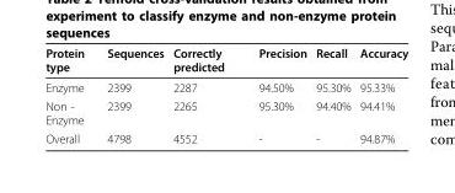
<table><thead><tr><td>Protein type</td><td>Sequences</td><td>Correctly predicted</td><td>Precision</td><td>Recall</td><td>Accuracy</td></tr></thead><tbody><tr><td>Enzyme</td><td>2399</td><td>2287</td><td>94.50%</td><td>95.30%</td><td>95.33%</td></tr><tr><td>Non - Enzyme</td><td>2399</td><td>2265</td><td>95.30%</td><td>94.40%</td><td>94.41%</td></tr><tr><td>Overall</td><td>4798</td><td>4552</td><td>-</td><td>-</td><td>94.87%</td></tr></tbody></table>